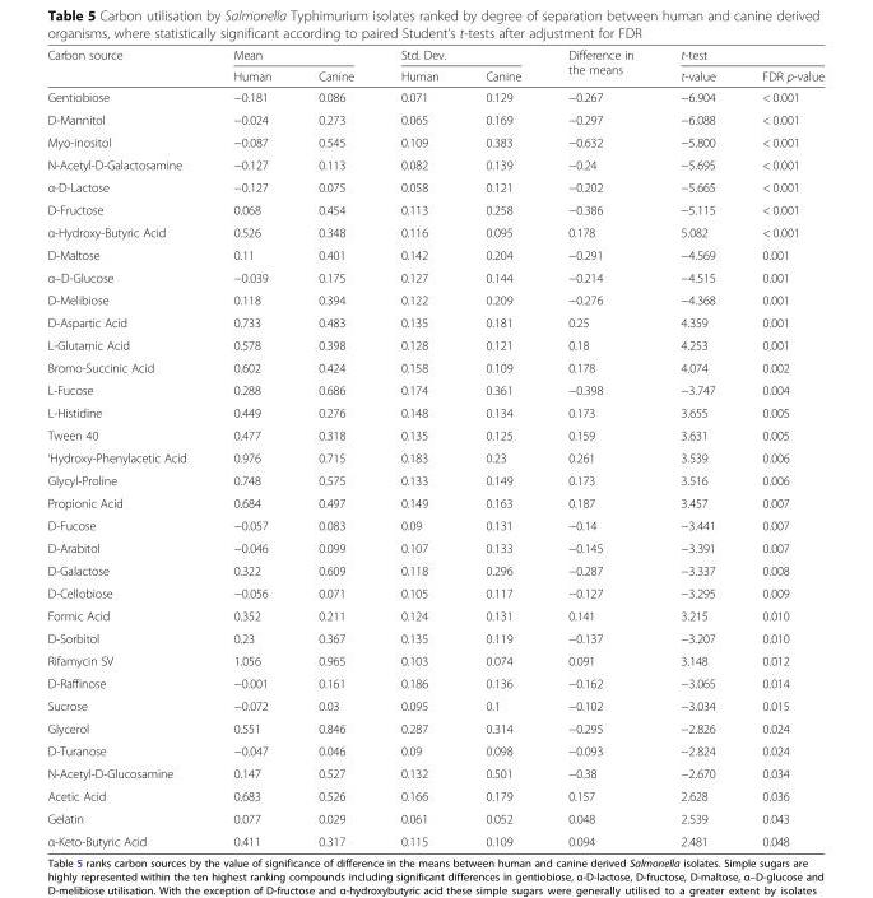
<table><thead><tr><td rowspan="2">Carbon source</td><td colspan="2">Mean</td><td colspan="2">Std. Dev.</td><td rowspan="2">Difference in the means</td><td colspan="2">t-test</td></tr><tr><td>Human</td><td>Canine</td><td>Human</td><td>Canine</td><td>t-value</td><td>FDR p-value</td></tr></thead><tbody><tr><td>Gentiobiose</td><td>−0.181</td><td>0.086</td><td>0.071</td><td>0.129</td><td>−0.267</td><td>−6.904</td><td>&lt; 0.001</td></tr><tr><td>D-Mannitol</td><td>−0.024</td><td>0.273</td><td>0.065</td><td>0.169</td><td>−0.297</td><td>−6.088</td><td>&lt; 0.001</td></tr><tr><td>Myo-inositol</td><td>−0.087</td><td>0.545</td><td>0.109</td><td>0.383</td><td>−0.632</td><td>−5.800</td><td>&lt; 0.001</td></tr><tr><td>N-Acetyl-D-Galactosamine</td><td>−0.127</td><td>0.113</td><td>0.082</td><td>0.139</td><td>−0.24</td><td>−5.695</td><td>&lt; 0.001</td></tr><tr><td>α-D-Lactose</td><td>−0.127</td><td>0.075</td><td>0.058</td><td>0.121</td><td>−0.202</td><td>−5.665</td><td>&lt; 0.001</td></tr><tr><td>D-Fructose</td><td>0.068</td><td>0.454</td><td>0.113</td><td>0.258</td><td>−0.386</td><td>−5.115</td><td>&lt; 0.001</td></tr><tr><td>α-Hydroxy-Butyric Acid</td><td>0.526</td><td>0.348</td><td>0.116</td><td>0.095</td><td>0.178</td><td>5.082</td><td>&lt; 0.001</td></tr><tr><td>D-Maltose</td><td>0.11</td><td>0.401</td><td>0.142</td><td>0.204</td><td>−0.291</td><td>−4.569</td><td>0.001</td></tr><tr><td>α–D-Glucose</td><td>−0.039</td><td>0.175</td><td>0.127</td><td>0.144</td><td>−0.214</td><td>−4.515</td><td>0.001</td></tr><tr><td>D-Melibiose</td><td>0.118</td><td>0.394</td><td>0.122</td><td>0.209</td><td>−0.276</td><td>−4.368</td><td>0.001</td></tr><tr><td>D-Aspartic Acid</td><td>0.733</td><td>0.483</td><td>0.135</td><td>0.181</td><td>0.25</td><td>4.359</td><td>0.001</td></tr><tr><td>L-Glutamic Acid</td><td>0.578</td><td>0.398</td><td>0.128</td><td>0.121</td><td>0.18</td><td>4.253</td><td>0.001</td></tr><tr><td>Bromo-Succinic Acid</td><td>0.602</td><td>0.424</td><td>0.158</td><td>0.109</td><td>0.178</td><td>4.074</td><td>0.002</td></tr><tr><td>L-Fucose</td><td>0.288</td><td>0.686</td><td>0.174</td><td>0.361</td><td>−0.398</td><td>−3.747</td><td>0.004</td></tr><tr><td>L-Histidine</td><td>0.449</td><td>0.276</td><td>0.148</td><td>0.134</td><td>0.173</td><td>3.655</td><td>0.005</td></tr><tr><td>Tween 40</td><td>0.477</td><td>0.318</td><td>0.135</td><td>0.125</td><td>0.159</td><td>3.631</td><td>0.005</td></tr><tr><td>‘Hydroxy-Phenylacetic Acid</td><td>0.976</td><td>0.715</td><td>0.183</td><td>0.23</td><td>0.261</td><td>3.539</td><td>0.006</td></tr><tr><td>Glycyl-Proline</td><td>0.748</td><td>0.575</td><td>0.133</td><td>0.149</td><td>0.173</td><td>3.516</td><td>0.006</td></tr><tr><td>Propionic Acid</td><td>0.684</td><td>0.497</td><td>0.149</td><td>0.163</td><td>0.187</td><td>3.457</td><td>0.007</td></tr><tr><td>D-Fucose</td><td>−0.057</td><td>0.083</td><td>0.09</td><td>0.131</td><td>−0.14</td><td>−3.441</td><td>0.007</td></tr><tr><td>D-Arabitol</td><td>−0.046</td><td>0.099</td><td>0.107</td><td>0.133</td><td>−0.145</td><td>−3.391</td><td>0.007</td></tr><tr><td>D-Galactose</td><td>0.322</td><td>0.609</td><td>0.118</td><td>0.296</td><td>−0.287</td><td>−3.337</td><td>0.008</td></tr><tr><td>D-Cellobiose</td><td>−0.056</td><td>0.071</td><td>0.105</td><td>0.117</td><td>−0.127</td><td>−3.295</td><td>0.009</td></tr><tr><td>Formic Acid</td><td>0.352</td><td>0.211</td><td>0.124</td><td>0.131</td><td>0.141</td><td>3.215</td><td>0.010</td></tr><tr><td>D-Sorbitol</td><td>0.23</td><td>0.367</td><td>0.135</td><td>0.119</td><td>−0.137</td><td>−3.207</td><td>0.010</td></tr><tr><td>Rifamycin SV</td><td>1.056</td><td>0.965</td><td>0.103</td><td>0.074</td><td>0.091</td><td>3.148</td><td>0.012</td></tr><tr><td>D-Raffinose</td><td>−0.001</td><td>0.161</td><td>0.186</td><td>0.136</td><td>−0.162</td><td>−3.065</td><td>0.014</td></tr><tr><td>Sucrose</td><td>−0.072</td><td>0.03</td><td>0.095</td><td>0.1</td><td>−0.102</td><td>−3.034</td><td>0.015</td></tr><tr><td>Glycerol</td><td>0.551</td><td>0.846</td><td>0.287</td><td>0.314</td><td>−0.295</td><td>−2.826</td><td>0.024</td></tr><tr><td>D-Turanose</td><td>−0.047</td><td>0.046</td><td>0.09</td><td>0.098</td><td>−0.093</td><td>−2.824</td><td>0.024</td></tr><tr><td>N-Acetyl-D-Glucosamine</td><td>0.147</td><td>0.527</td><td>0.132</td><td>0.501</td><td>−0.38</td><td>−2.670</td><td>0.034</td></tr><tr><td>Acetic Acid</td><td>0.683</td><td>0.526</td><td>0.166</td><td>0.179</td><td>0.157</td><td>2.628</td><td>0.036</td></tr><tr><td>Gelatin</td><td>0.077</td><td>0.029</td><td>0.061</td><td>0.052</td><td>0.048</td><td>2.539</td><td>0.043</td></tr><tr><td>α-Keto-Butyric Acid</td><td>0.411</td><td>0.317</td><td>0.115</td><td>0.109</td><td>0.094</td><td>2.481</td><td>0.048</td></tr></tbody></table>